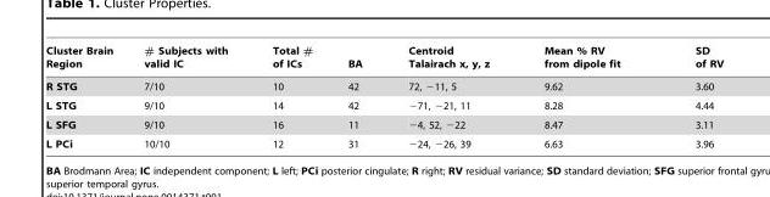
<table><thead><tr><td>Cluster Brain Region</td><td># Subjects with valid IC</td><td>Total # of ICs</td><td>BA</td><td>Centroid Talairach x, y, z</td><td>Mean % RV from dipole fit</td><td>SD of RV</td></tr></thead><tbody><tr><td>R STG</td><td>7/10</td><td>10</td><td>42</td><td>72, −11, 5</td><td>9.62</td><td>3.60</td></tr><tr><td>L STG</td><td>9/10</td><td>14</td><td>42</td><td>−71, −21, 11</td><td>8.28</td><td>4.44</td></tr><tr><td>L SFG</td><td>9/10</td><td>16</td><td>11</td><td>−4, 52, −22</td><td>8.47</td><td>3.11</td></tr><tr><td>L PCi</td><td>10/10</td><td>12</td><td>31</td><td>−24, −26, 39</td><td>6.63</td><td>3.96</td></tr></tbody></table>